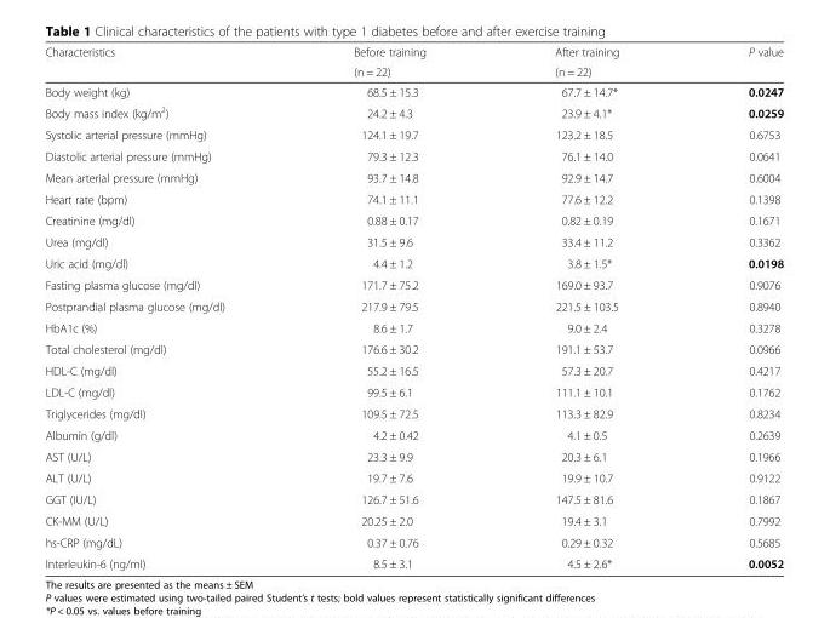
<table><thead><tr><td rowspan="2">Characteristics</td><td rowspan="2">Before training (n = 22)</td><td rowspan="2">After training (n = 22)</td><td rowspan="2">P value</td></tr><tr></tr></thead><tbody><tr><td>Body weight (kg)</td><td>68.5 ± 15.3</td><td>67.7 ± 14.7*</td><td>0.0247</td></tr><tr><td>Body mass index (kg/m<sup>2</sup>)</td><td>24.2 ± 4.3</td><td>23.9 ± 4.1*</td><td>0.0259</td></tr><tr><td>Systolic arterial pressure (mmHg)</td><td>124.1 ± 19.7</td><td>123.2 ± 18.5</td><td>0.6753</td></tr><tr><td>Diastolic arterial pressure (mmHg)</td><td>79.3 ± 12.3</td><td>76.1 ± 14.0</td><td>0.0641</td></tr><tr><td>Mean arterial pressure (mmHg)</td><td>93.7 ± 14.8</td><td>92.9 ± 14.7</td><td>0.6004</td></tr><tr><td>Heart rate (bpm)</td><td>74.1 ± 11.1</td><td>77.6 ± 12.2</td><td>0.1398</td></tr><tr><td>Creatinine (mg/dl)</td><td>0.88 ± 0.17</td><td>0.82 ± 0.19</td><td>0.1671</td></tr><tr><td>Urea (mg/dl)</td><td>31.5 ± 9.6</td><td>33.4 ± 11.2</td><td>0.3362</td></tr><tr><td>Uric acid (mg/dl)</td><td>4.4 ± 1.2</td><td>3.8 ± 1.5*</td><td>0.0198</td></tr><tr><td>Fasting plasma glucose (mg/dl)</td><td>171.7 ± 75.2</td><td>169.0 ± 93.7</td><td>0.9076</td></tr><tr><td>Postprandial plasma glucose (mg/dl)</td><td>217.9 ± 79.5</td><td>221.5 ± 103.5</td><td>0.8940</td></tr><tr><td>HbA1c (%)</td><td>8.6 ± 1.7</td><td>9.0 ± 2.4</td><td>0.3278</td></tr><tr><td>Total cholesterol (mg/dl)</td><td>176.6 ± 30.2</td><td>191.1 ± 53.7</td><td>0.0966</td></tr><tr><td>HDL-C (mg/dl)</td><td>55.2 ± 16.5</td><td>57.3 ± 20.7</td><td>0.4217</td></tr><tr><td>LDL-C (mg/dl)</td><td>99.5 ± 6.1</td><td>111.1 ± 10.1</td><td>0.1762</td></tr><tr><td>Triglycerides (mg/dl)</td><td>109.5 ± 72.5</td><td>113.3 ± 82.9</td><td>0.8234</td></tr><tr><td>Albumin (g/dl)</td><td>4.2 ± 0.42</td><td>4.1 ± 0.5</td><td>0.2639</td></tr><tr><td>AST (U/L)</td><td>23.3 ± 9.9</td><td>20.3 ± 6.1</td><td>0.1966</td></tr><tr><td>ALT (U/L)</td><td>19.7 ± 7.6</td><td>19.9 ± 10.7</td><td>0.9122</td></tr><tr><td>GGT (IU/L)</td><td>126.7 ± 51.6</td><td>147.5 ± 81.6</td><td>0.1867</td></tr><tr><td>CK-MM (U/L)</td><td>20.25 ± 2.0</td><td>19.4 ± 3.1</td><td>0.7992</td></tr><tr><td>hs-CRP (mg/dL)</td><td>0.37 ± 0.76</td><td>0.29 ± 0.32</td><td>0.5685</td></tr><tr><td>Interleukin-6 (ng/ml)</td><td>8.5 ± 3.1</td><td>4.5 ± 2.6*</td><td>0.0052</td></tr></tbody></table>